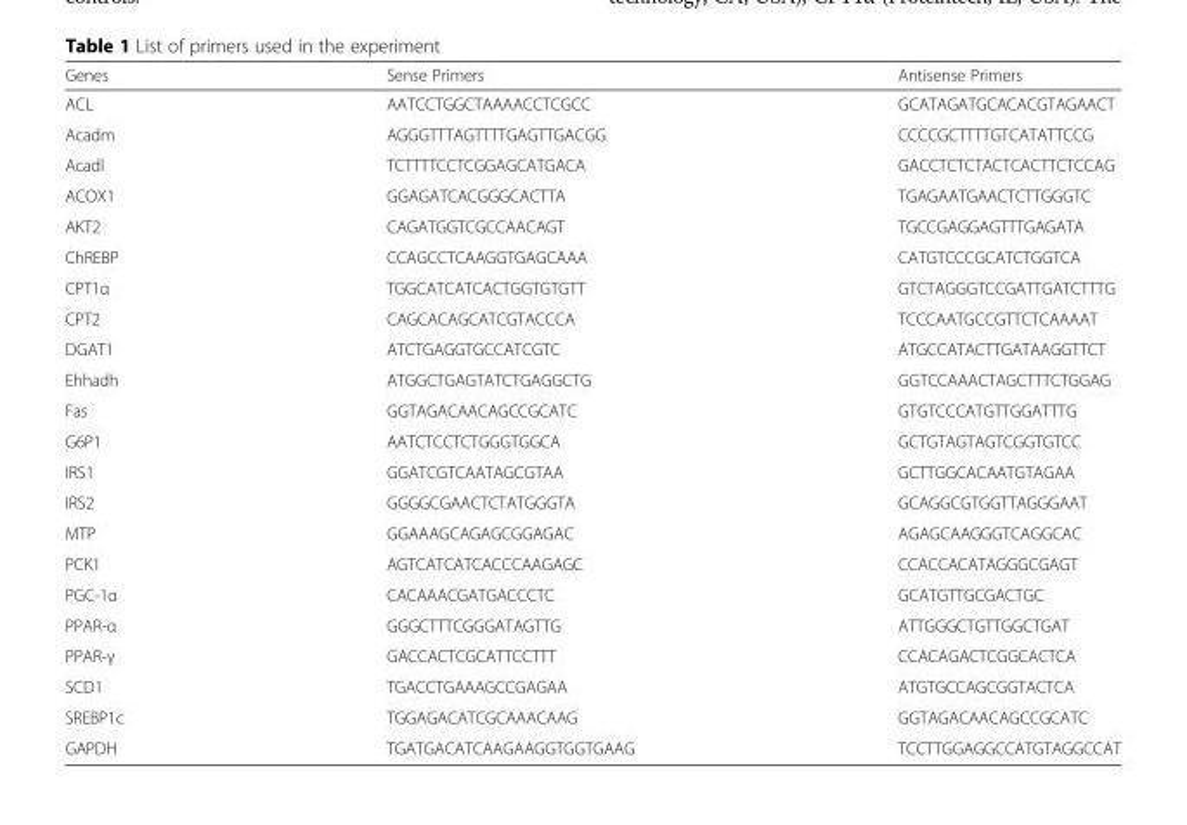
<table><thead><tr><td>Genes</td><td>Sense Primers</td><td>Antisense Primers</td></tr></thead><tbody><tr><td>ACL</td><td>AATCCTGGCTAAAACCTCGCC</td><td>GCATAGATGCACACGTAGAACT</td></tr><tr><td>Acadm</td><td>AGGGTTTAGTTTTGAGTTGACGG</td><td>CCCCGCTTTTGTCATATTCCG</td></tr><tr><td>Acadl</td><td>TCTTTTCCTCGGAGCATGACA</td><td>GACCTCTCTACTCACTTCTCCAG</td></tr><tr><td>ACOX1</td><td>GGAGATCACGGGCACTTA</td><td>TGAGAATGAACTCTTGGGTC</td></tr><tr><td>AKT2</td><td>CAGATGGTCGCCAACAGT</td><td>TGCCGAGGAGTTTGAGATA</td></tr><tr><td>ChREBP</td><td>CCAGCCTCAAGGTGAGCAAA</td><td>CATGTCCCGCATCTGGTCA</td></tr><tr><td>CPT1α</td><td>TGGCATCATCACTGGTGTGTT</td><td>GTCTAGGGTCCGATTGATCTTTG</td></tr><tr><td>CPT2</td><td>CAGCACAGCATCGTACCCA</td><td>TCCCAATGCCGTTCTCAAAAT</td></tr><tr><td>DGAT1</td><td>ATCTGAGGTGCCATCGTC</td><td>ATGCCATACTTGATAAGGTTCT</td></tr><tr><td>Ehhadh</td><td>ATGGCTGAGTATCTGAGGCTG</td><td>GGTCCAAACTAGCTTTCTGGAG</td></tr><tr><td>Fas</td><td>GGTAGACAACAGCCGCATC</td><td>GTGTCCCATGTTGGATTTG</td></tr><tr><td>G6P1</td><td>AATCTCCTCTGGGTGGCA</td><td>GCTGTAGTAGTCGGTGTCC</td></tr><tr><td>IRS1</td><td>GGATCGTCAATAGCGTAA</td><td>GCTTGGCACAATGTAGAA</td></tr><tr><td>IRS2</td><td>GGGGCGAACTCTATGGGTA</td><td>GCAGGCGTGGTTAGGGAAT</td></tr><tr><td>MTP</td><td>GGAAAGCAGAGCGGAGAC</td><td>AGAGCAAGGGTCAGGCAC</td></tr><tr><td>PCK1</td><td>AGTCATCATCACCCAAGAGC</td><td>CCACCACATAGGGCGAGT</td></tr><tr><td>PGC-1α</td><td>CACAAACGATGACCCTC</td><td>GCATGTTGCGACTGC</td></tr><tr><td>PPAR-α</td><td>GGGCTTTCGGGATAGTTG</td><td>ATTGGGCTGTTGGCTGAT</td></tr><tr><td>PPAR-γ</td><td>GACCACTCGCATTCCTTT</td><td>CCACAGACTCGGCACTCA</td></tr><tr><td>SCD1</td><td>TGACCTGAAAGCCGAGAA</td><td>ATGTGCCAGCGGTACTCA</td></tr><tr><td>SREBP1c</td><td>TGGAGACATCGCAAACAAG</td><td>GGTAGACAACAGCCGCATC</td></tr><tr><td>GAPDH</td><td>TGATGACATCAAGAAGGTGGTGAAG</td><td>TCCTTGGAGGCCATGTAGGCCAT</td></tr></tbody></table>